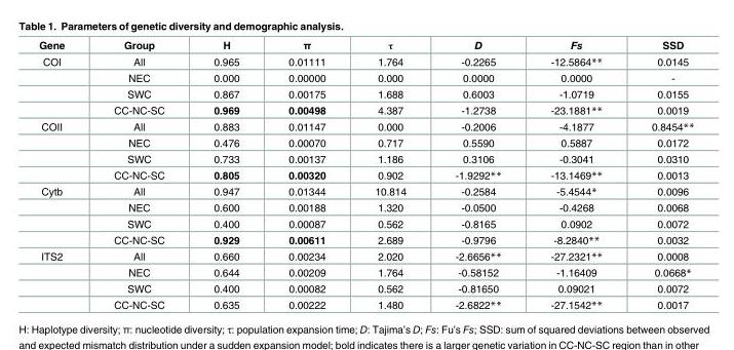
<table><thead><tr><td>Gene</td><td>Group</td><td>H</td><td>π</td><td>τ</td><td>D</td><td>Fs</td><td>SSD</td></tr></thead><tbody><tr><td rowspan="4">COI</td><td>All</td><td>0.965</td><td>0.01111</td><td>1.764</td><td>-0.2265</td><td>-12.5864**</td><td>0.0145</td></tr><tr><td>NEC</td><td>0.000</td><td>0.00000</td><td>0.000</td><td>0.0000</td><td>0.0000</td><td>-</td></tr><tr><td>SWC</td><td>0.867</td><td>0.00175</td><td>1.688</td><td>0.6003</td><td>-1.0719</td><td>0.0155</td></tr><tr><td>CC-NC-SC</td><td>0.969</td><td>0.00498</td><td>4.387</td><td>-1.2738</td><td>-23.1881**</td><td>0.0019</td></tr><tr><td rowspan="4">COII</td><td>All</td><td>0.883</td><td>0.01147</td><td>0.000</td><td>-0.2006</td><td>-4.1877</td><td>0.8454**</td></tr><tr><td>NEC</td><td>0.476</td><td>0.00070</td><td>0.717</td><td>0.5590</td><td>0.5887</td><td>0.0172</td></tr><tr><td>SWC</td><td>0.733</td><td>0.00137</td><td>1.186</td><td>0.3106</td><td>-0.3041</td><td>0.0310</td></tr><tr><td>CC-NC-SC</td><td>0.805</td><td>0.00320</td><td>0.902</td><td>-1.9292**</td><td>-13.1469**</td><td>0.0013</td></tr><tr><td rowspan="4">Cytb</td><td>All</td><td>0.947</td><td>0.01344</td><td>10.814</td><td>-0.2584</td><td>-5.4544*</td><td>0.0096</td></tr><tr><td>NEC</td><td>0.600</td><td>0.00188</td><td>1.320</td><td>-0.0500</td><td>-0.4268</td><td>0.0068</td></tr><tr><td>SWC</td><td>0.400</td><td>0.00087</td><td>0.562</td><td>-0.8165</td><td>0.0902</td><td>0.0072</td></tr><tr><td>CC-NC-SC</td><td>0.929</td><td>0.00611</td><td>2.689</td><td>-0.9796</td><td>-8.2840**</td><td>0.0032</td></tr><tr><td rowspan="4">ITS2</td><td>All</td><td>0.660</td><td>0.00234</td><td>2.020</td><td>-2.6656**</td><td>-27.2321**</td><td>0.0008</td></tr><tr><td>NEC</td><td>0.644</td><td>0.00209</td><td>1.764</td><td>-0.58152</td><td>-1.16409</td><td>0.0668*</td></tr><tr><td>SWC</td><td>0.400</td><td>0.00082</td><td>0.562</td><td>-0.81650</td><td>0.09021</td><td>0.0072</td></tr><tr><td>CC-NC-SC</td><td>0.635</td><td>0.00222</td><td>1.480</td><td>-2.6822**</td><td>-27.1542**</td><td>0.0017</td></tr></tbody></table>